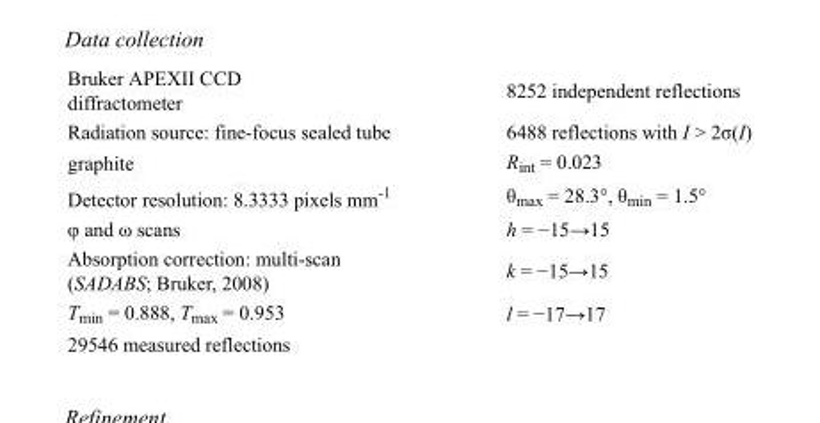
<table><tbody><tr><td>Bruker APEXII CCD diffractometer</td><td>8252 independent reflections</td></tr><tr><td>Radiation source: fine-focus sealed tube</td><td>6488 reflections with I &gt; 2σ(I)</td></tr><tr><td>graphite</td><td>R<sub>int</sub> = 0.023</td></tr><tr><td>Detector resolution: 8.3333 pixels mm<sup>-1</sup></td><td>θ<sub>max</sub> = 28.3°, θ<sub>min</sub> = 1.5°</td></tr><tr><td>φ and ω scans</td><td>h = −15→15</td></tr><tr><td>Absorption correction: multi-scan (SADABS; Bruker, 2008)</td><td>k = −15→15</td></tr><tr><td>T<sub>min</sub> = 0.888, T<sub>max</sub> = 0.953</td><td>l = −17→17</td></tr><tr><td>29546 measured reflections</td><td></td></tr></tbody></table>